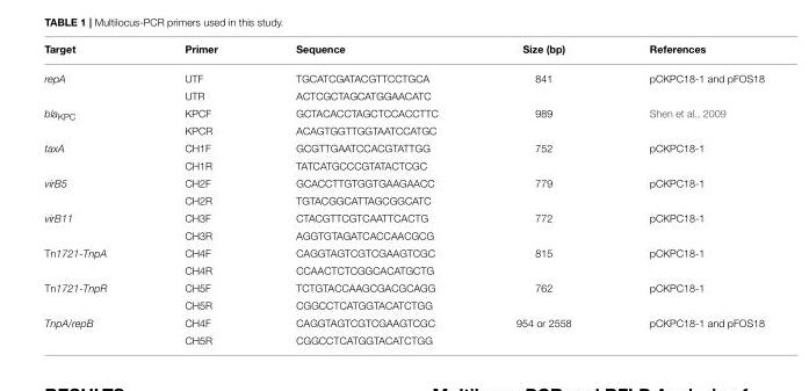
<table><thead><tr><td>Target</td><td>Primer</td><td>Sequence</td><td>Size (bp)</td><td>References</td></tr></thead><tbody><tr><td rowspan="2">repA</td><td>UTF</td><td>TGCATCGATACGTTCCTGCA</td><td>841</td><td>pCKPC18-1 and pFOS18</td></tr><tr><td>UTR</td><td>ACTCGCTAGCATGGAACATC</td><td></td><td></td></tr><tr><td rowspan="2">bla<sub>KPC</sub></td><td>KPCF</td><td>GCTACACCTAGCTCCACCTTC</td><td>989</td><td>Shen et al., 2009</td></tr><tr><td>KPCR</td><td>ACAGTGGTTGGTAATCCATGC</td><td></td><td></td></tr><tr><td rowspan="2">taxA</td><td>CH1F</td><td>GCGTTGAATCCACGTATTGG</td><td>752</td><td>pCKPC18-1</td></tr><tr><td>CH1R</td><td>TATCATGCCCGTATACTCGC</td><td></td><td></td></tr><tr><td rowspan="2">virB5</td><td>CH2F</td><td>GCACCTTGTGGTGAAGAACC</td><td>779</td><td>pCKPC18-1</td></tr><tr><td>CH2R</td><td>TGTACGGCATTAGCGGCATC</td><td></td><td></td></tr><tr><td rowspan="2">virB11</td><td>CH3F</td><td>CTACGTTCGTCAATTCACTG</td><td>772</td><td>pCKPC18-1</td></tr><tr><td>CH3R</td><td>AGGTGTAGATCACCAACGCG</td><td></td><td></td></tr><tr><td rowspan="2">Tn1721-TnpA</td><td>CH4F</td><td>CAGGTAGTCGTCGAAGTCGC</td><td>815</td><td>pCKPC18-1</td></tr><tr><td>CH4R</td><td>CCAACTCTCGGCACATGCTG</td><td></td><td></td></tr><tr><td rowspan="2">Tn1721-TnpR</td><td>CH5F</td><td>TCTGTACCAAGCGACGCAGG</td><td>762</td><td>pCKPC18-1</td></tr><tr><td>CH5R</td><td>CGGCCTCATGGTACATCTGG</td><td></td><td></td></tr><tr><td rowspan="2">TnpA/repB</td><td>CH4F</td><td>CAGGTAGTCGTCGAAGTCGC</td><td>954 or 2558</td><td>pCKPC18-1 and pFOS18</td></tr><tr><td>CH5R</td><td>CGGCCTCATGGTACATCTGG</td><td></td><td></td></tr></tbody></table>